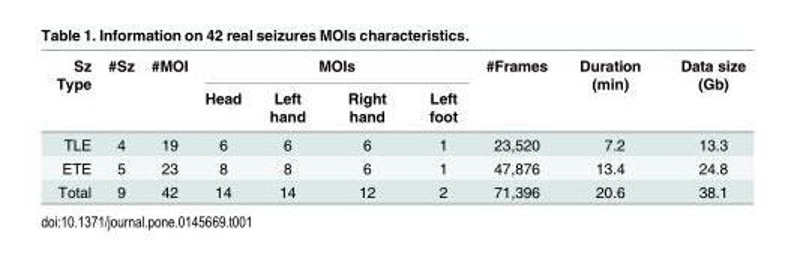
<table><thead><tr><td rowspan="2">Sz Type</td><td rowspan="2">#Sz</td><td rowspan="2">#MOI</td><td colspan="4">MOIs</td><td rowspan="2">#Frames</td><td rowspan="2">Duration (min)</td><td rowspan="2">Data size (Gb)</td></tr><tr><td>Head</td><td>Left hand</td><td>Right hand</td><td>Left foot</td></tr></thead><tbody><tr><td>TLE</td><td>4</td><td>19</td><td>6</td><td>6</td><td>6</td><td>1</td><td>23,520</td><td>7.2</td><td>13.3</td></tr><tr><td>ETE</td><td>5</td><td>23</td><td>8</td><td>8</td><td>6</td><td>1</td><td>47,876</td><td>13.4</td><td>24.8</td></tr><tr><td>Total</td><td>9</td><td>42</td><td>14</td><td>14</td><td>12</td><td>2</td><td>71,396</td><td>20.6</td><td>38.1</td></tr></tbody></table>